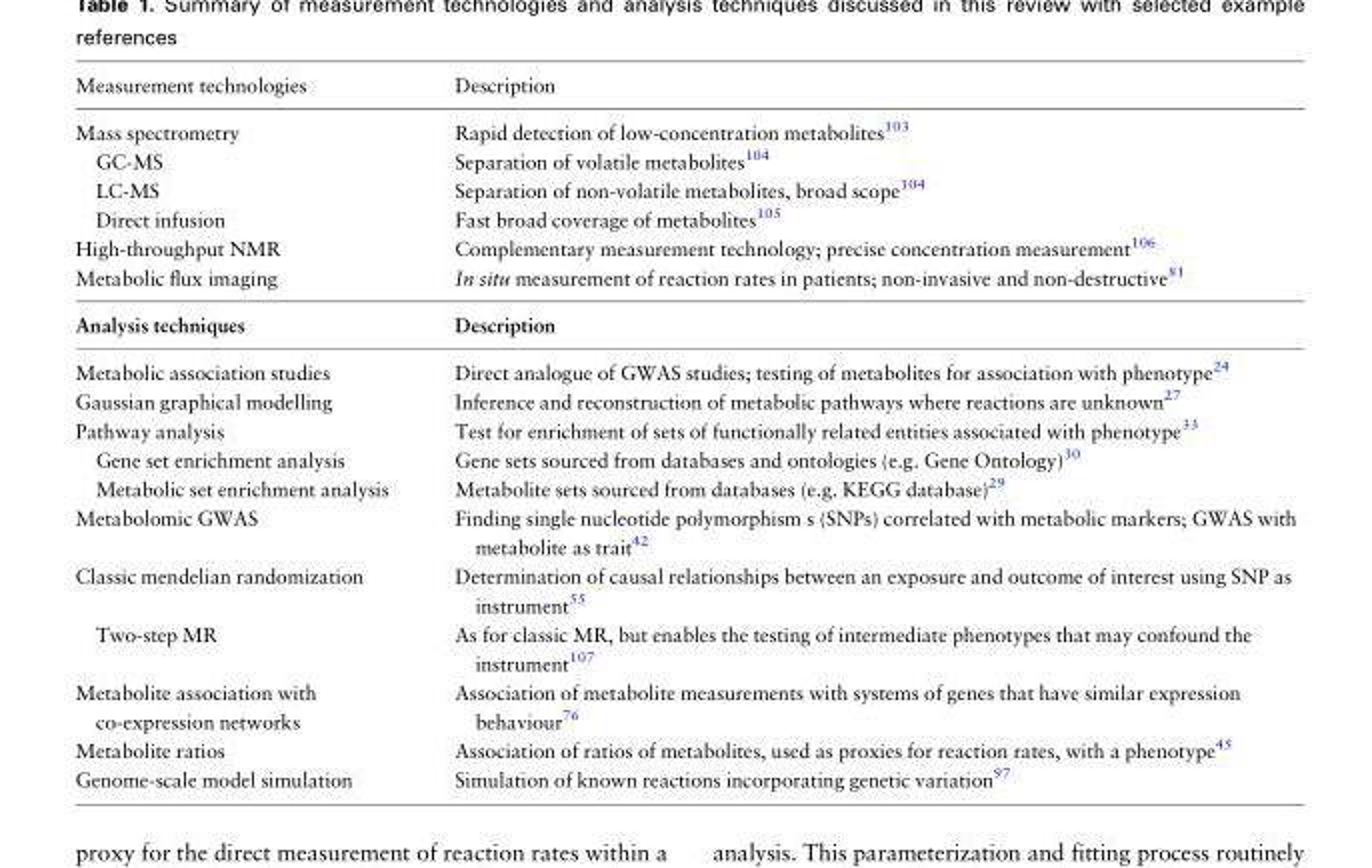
<table><thead><tr><td>Measurement technologies</td><td>Description</td></tr></thead><tbody><tr><td>Mass spectrometry</td><td>Rapid detection of low-concentration metabolites<sup>103</sup></td></tr><tr><td>GC-MS</td><td>Separation of volatile metabolites<sup>104</sup></td></tr><tr><td>LC-MS</td><td>Separation of non-volatile metabolites, broad scope<sup>104</sup></td></tr><tr><td>Direct infusion</td><td>Fast broad coverage of metabolites<sup>105</sup></td></tr><tr><td>High-throughput NMR</td><td>Complementary measurement technology; precise concentration measurement<sup>106</sup></td></tr><tr><td>Metabolic flux imaging</td><td>In situ measurement of reaction rates in patients; non-invasive and non-destructive<sup>81</sup></td></tr><tr><td>Analysis techniques</td><td>Description</td></tr><tr><td>Metabolic association studies</td><td>Direct analogue of GWAS studies; testing of metabolites for association with phenotype<sup>24</sup></td></tr><tr><td>Gaussian graphical modelling</td><td>Inference and reconstruction of metabolic pathways where reactions are unknown<sup>27</sup></td></tr><tr><td>Pathway analysis</td><td>Test for enrichment of sets of functionally related entities associated with phenotype<sup>33</sup></td></tr><tr><td>Gene set enrichment analysis</td><td>Gene sets sourced from databases and ontologies (e.g. Gene Ontology)<sup>30</sup></td></tr><tr><td>Metabolic set enrichment analysis</td><td>Metabolite sets sourced from databases (e.g. KEGG database)<sup>29</sup></td></tr><tr><td>Metabolomic GWAS</td><td>Finding single nucleotide polymorphism s (SNPs) correlated with metabolic markers; GWAS with metabolite as trait<sup>42</sup></td></tr><tr><td>Classic mendelian randomization</td><td>Determination of causal relationships between an exposure and outcome of interest using SNP as instrument<sup>55</sup></td></tr><tr><td>Two-step MR</td><td>As for classic MR, but enables the testing of intermediate phenotypes that may confound the instrument<sup>107</sup></td></tr><tr><td>Metabolite association with co-expression networks</td><td>Association of metabolite measurements with systems of genes that have similar expression behaviour<sup>76</sup></td></tr><tr><td>Metabolite ratios</td><td>Association of ratios of metabolites, used as proxies for reaction rates, with a phenotype<sup>45</sup></td></tr><tr><td>Genome-scale model simulation</td><td>Simulation of known reactions incorporating genetic variation<sup>97</sup></td></tr></tbody></table>